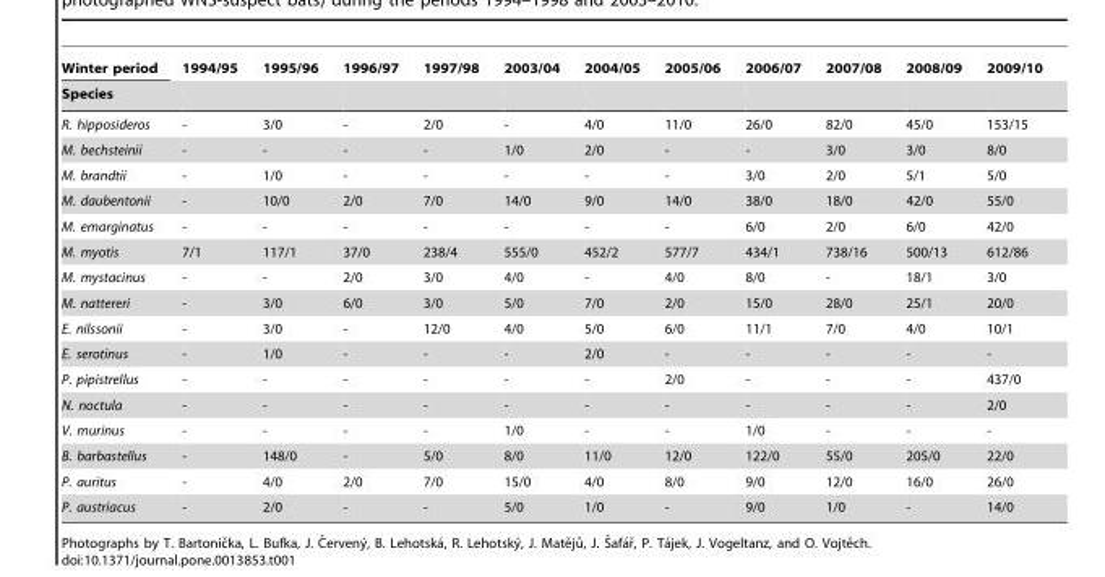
<table><thead><tr><td rowspan="2">Winter period Species</td><td rowspan="2">1994/95</td><td rowspan="2">1995/96</td><td rowspan="2">1996/97</td><td rowspan="2">1997/98</td><td rowspan="2">2003/04</td><td rowspan="2">2004/05</td><td rowspan="2">2005/06</td><td rowspan="2">2006/07</td><td rowspan="2">2007/08</td><td rowspan="2">2008/09</td><td rowspan="2">2009/10</td></tr><tr></tr></thead><tbody><tr><td>R. hipposideros</td><td>-</td><td>3/0</td><td>-</td><td>2/0</td><td>-</td><td>4/0</td><td>11/0</td><td>26/0</td><td>82/0</td><td>45/0</td><td>153/15</td></tr><tr><td>M. bechsteinii</td><td>-</td><td>-</td><td>-</td><td>-</td><td>1/0</td><td>2/0</td><td>-</td><td>-</td><td>3/0</td><td>3/0</td><td>8/0</td></tr><tr><td>M. brandtii</td><td>-</td><td>1/0</td><td>-</td><td>-</td><td>-</td><td>-</td><td>-</td><td>3/0</td><td>2/0</td><td>5/1</td><td>5/0</td></tr><tr><td>M. daubentonii</td><td>-</td><td>10/0</td><td>2/0</td><td>7/0</td><td>14/0</td><td>9/0</td><td>14/0</td><td>38/0</td><td>18/0</td><td>42/0</td><td>55/0</td></tr><tr><td>M. emarginatus</td><td>-</td><td>-</td><td>-</td><td>-</td><td>-</td><td>-</td><td>-</td><td>6/0</td><td>2/0</td><td>6/0</td><td>42/0</td></tr><tr><td>M. myotis</td><td>7/1</td><td>117/1</td><td>37/0</td><td>238/4</td><td>555/0</td><td>452/2</td><td>577/7</td><td>434/1</td><td>738/16</td><td>500/13</td><td>612/86</td></tr><tr><td>M. mystacinus</td><td>-</td><td>-</td><td>2/0</td><td>3/0</td><td>4/0</td><td>-</td><td>4/0</td><td>8/0</td><td>-</td><td>18/1</td><td>3/0</td></tr><tr><td>M. nattereri</td><td>-</td><td>3/0</td><td>6/0</td><td>3/0</td><td>5/0</td><td>7/0</td><td>2/0</td><td>15/0</td><td>28/0</td><td>25/1</td><td>20/0</td></tr><tr><td>E. nilssonii</td><td>-</td><td>3/0</td><td>-</td><td>12/0</td><td>4/0</td><td>5/0</td><td>6/0</td><td>11/1</td><td>7/0</td><td>4/0</td><td>10/1</td></tr><tr><td>E. serotinus</td><td>-</td><td>1/0</td><td>-</td><td>-</td><td>-</td><td>2/0</td><td>-</td><td>-</td><td>-</td><td>-</td><td>-</td></tr><tr><td>P. pipistrellus</td><td>-</td><td>-</td><td>-</td><td>-</td><td>-</td><td>-</td><td>2/0</td><td>-</td><td>-</td><td>-</td><td>437/0</td></tr><tr><td>N. noctula</td><td>-</td><td>-</td><td>-</td><td>-</td><td>-</td><td>-</td><td>-</td><td>-</td><td>-</td><td>-</td><td>2/0</td></tr><tr><td>V. murinus</td><td>-</td><td>-</td><td>-</td><td>-</td><td>1/0</td><td>-</td><td>-</td><td>1/0</td><td>-</td><td>-</td><td>-</td></tr><tr><td>B. barbastellus</td><td>-</td><td>148/0</td><td>-</td><td>5/0</td><td>8/0</td><td>11/0</td><td>12/0</td><td>122/0</td><td>55/0</td><td>205/0</td><td>22/0</td></tr><tr><td>P. auritus</td><td>-</td><td>4/0</td><td>2/0</td><td>7/0</td><td>15/0</td><td>4/0</td><td>8/0</td><td>9/0</td><td>12/0</td><td>16/0</td><td>26/0</td></tr><tr><td>P. austriacus</td><td>-</td><td>2/0</td><td>-</td><td>-</td><td>5/0</td><td>1/0</td><td>-</td><td>9/0</td><td>1/0</td><td>-</td><td>14/0</td></tr></tbody></table>